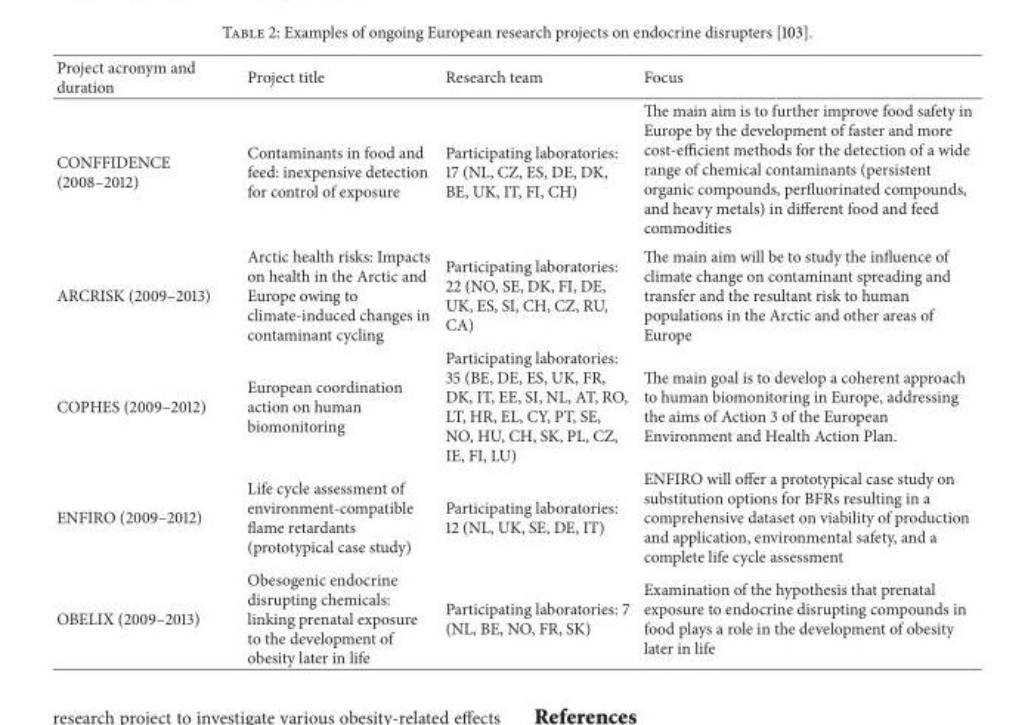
<table><thead><tr><td>Project acronym and duration</td><td>Project title</td><td>Research team</td><td>Focus</td></tr></thead><tbody><tr><td>CONFFIDENCE (2008–2012)</td><td>Contaminants in food and feed: inexpensive detection for control of exposure</td><td>Participating laboratories: 17 (NL, CZ, ES, DE, DK, BE, UK, IT, FI, CH)</td><td>The main aim is to further improve food safety in Europe by the development of faster and more cost-efficient methods for the detection of a wide range of chemical contaminants (persistent organic compounds, perfluorinated compounds, and heavy metals) in different food and feed commodities</td></tr><tr><td>ARCRISK (2009–2013)</td><td>Arctic health risks: Impacts on health in the Arctic and Europe owing to climate-induced changes in contaminant cycling</td><td>Participating laboratories: 22 (NO, SE, DK, FI, DE, UK, ES, SI, CH, CZ, RU, CA)</td><td>The main aim will be to study the influence of climate change on contaminant spreading and transfer and the resultant risk to human populations in the Arctic and other areas of Europe</td></tr><tr><td>COPHES (2009–2012)</td><td>European coordination action on human biomonitoring</td><td>Participating laboratories: 35 (BE, DE, ES, UK, FR, DK, IT, EE, SI, NL, AT, RO, LT, HR, EL, CY, PT, SE, NO, HU, CH, SK, PL, CZ, IE, FI, LU)</td><td>The main goal is to develop a coherent approach to human biomonitoring in Europe, addressing the aims of Action 3 of the European Environment and Health Action Plan.</td></tr><tr><td>ENFIRO (2009–2012)</td><td>Life cycle assessment of environment-compatible flame retardants (prototypical case study)</td><td>Participating laboratories: 12 (NL, UK, SE, DE, IT)</td><td>ENFIRO will offer a prototypical case study on substitution options for BFRs resulting in a comprehensive dataset on viability of production and application, environmental safety, and a complete life cycle assessment</td></tr><tr><td>OBELIX (2009–2013)</td><td>Obesogenic endocrine disrupting chemicals: linking prenatal exposure to the development of obesity later in life</td><td>Participating laboratories: 7 (NL, BE, NO, FR, SK)</td><td>Examination of the hypothesis that prenatal exposure to endocrine disrupting compounds in food plays a role in the development of obesity later in life</td></tr></tbody></table>